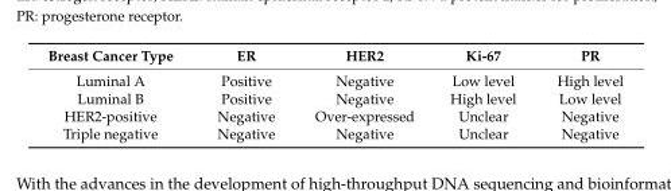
<table><thead><tr><td>Breast Cancer Type</td><td>ER</td><td>HER2</td><td>Ki-67</td><td>PR</td></tr></thead><tbody><tr><td>Luminal A</td><td>Positive</td><td>Negative</td><td>Low level</td><td>High level</td></tr><tr><td>Luminal B</td><td>Positive</td><td>Negative</td><td>High level</td><td>Low level</td></tr><tr><td>HER2-positive</td><td>Negative</td><td>Over-expressed</td><td>Unclear</td><td>Negative</td></tr><tr><td>Triple negative</td><td>Negative</td><td>Negative</td><td>Unclear</td><td>Negative</td></tr></tbody></table>